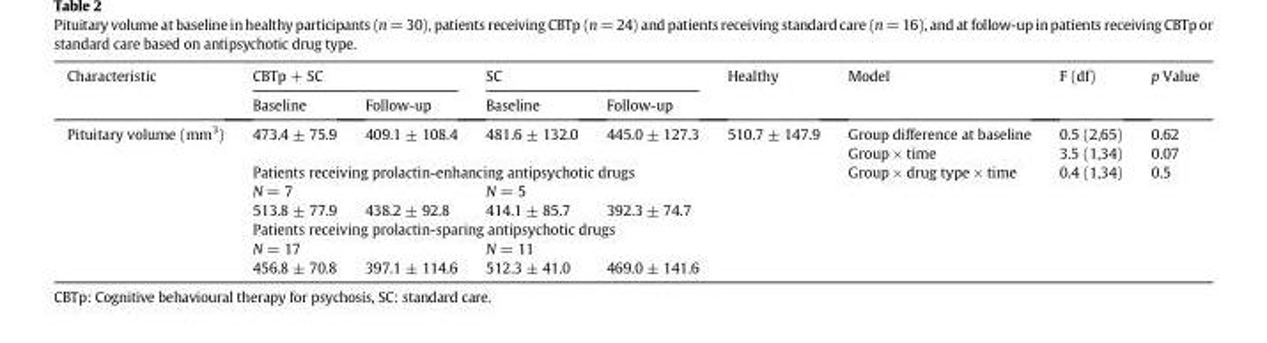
<table><thead><tr><td rowspan="2">Characteristic</td><td colspan="2">CBTp + SC</td><td colspan="2">SC</td><td rowspan="2">Healthy</td><td rowspan="2">Model</td><td rowspan="2">F (df)</td><td rowspan="2">p Value</td></tr><tr><td>Baseline</td><td>Follow-up</td><td>Baseline</td><td>Follow-up</td></tr></thead><tbody><tr><td rowspan="8">Pituitary volume (mm<sup>3</sup>)</td><td>473.4 ± 75.9</td><td>409.1 ± 108.4</td><td>481.6 ± 132.0</td><td>445.0 ± 127.3</td><td>510.7 ± 147.9</td><td>Group difference at baseline</td><td>0.5 (2,65)</td><td>0.62</td></tr><tr><td></td><td></td><td></td><td></td><td></td><td>Group × time</td><td>3.5 (1,34)</td><td>0.07</td></tr><tr><td colspan="4">Patients receiving prolactin-enhancing antipsychotic drugs</td><td></td><td rowspan="3">Group × drug type × time</td><td rowspan="3">0.4 (1,34)</td><td>0.5</td></tr><tr><td>N = 7</td><td></td><td>N = 5</td><td></td><td></td><td></td></tr><tr><td>513.8 ± 77.9</td><td>438.2 ± 92.8</td><td>414.1 ± 85.7</td><td>392.3 ± 74.7</td><td></td><td></td></tr><tr><td colspan="4">Patients receiving prolactin-sparing antipsychotic drugs</td><td></td><td rowspan="2"></td><td rowspan="2"></td><td rowspan="2"></td></tr><tr><td>N = 17</td><td></td><td>N = 11</td><td></td><td></td></tr><tr><td>456.8 ± 70.8</td><td>397.1 ± 114.6</td><td>512.3 ± 41.0</td><td>469.0 ± 141.6</td><td></td><td></td><td></td><td></td></tr></tbody></table>